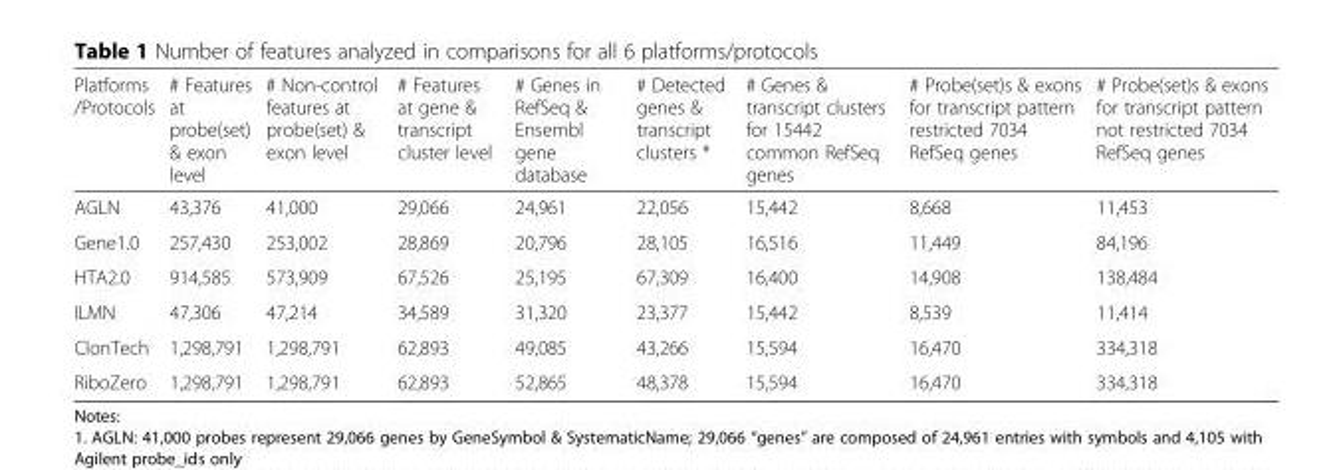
<table><thead><tr><td>Platforms /Protocols</td><td># Features at probe(set) &amp; exon level</td><td># Non-control features at probe(set) &amp; exon level</td><td># Features at gene &amp; transcript cluster level</td><td># Genes in RefSeq &amp; Ensembl gene database</td><td># Detected genes &amp; transcript clusters *</td><td># Genes &amp; transcript clusters for 15442 common RefSeq genes</td><td># Probe(set)s &amp; exons for transcript pattern restricted 7034 RefSeq genes</td><td># Probe(set)s &amp; exons for transcript pattern not restricted 7034 RefSeq genes</td></tr></thead><tbody><tr><td>AGLN</td><td>43,376</td><td>41,000</td><td>29,066</td><td>24,961</td><td>22,056</td><td>15,442</td><td>8,668</td><td>11,453</td></tr><tr><td>Gene1.0</td><td>257,430</td><td>253,002</td><td>28,869</td><td>20,796</td><td>28,105</td><td>16,516</td><td>11,449</td><td>84,196</td></tr><tr><td>HTA2.0</td><td>914,585</td><td>573,909</td><td>67,526</td><td>25,195</td><td>67,309</td><td>16,400</td><td>14,908</td><td>138,484</td></tr><tr><td>ILMN</td><td>47,306</td><td>47,214</td><td>34,589</td><td>31,320</td><td>23,377</td><td>15,442</td><td>8,539</td><td>11,414</td></tr><tr><td>ClonTech</td><td>1,298,791</td><td>1,298,791</td><td>62,893</td><td>49,085</td><td>43,266</td><td>15,594</td><td>16,470</td><td>334,318</td></tr><tr><td>RiboZero</td><td>1,298,791</td><td>1,298,791</td><td>62,893</td><td>52,865</td><td>48,378</td><td>15,594</td><td>16,470</td><td>334,318</td></tr></tbody></table>